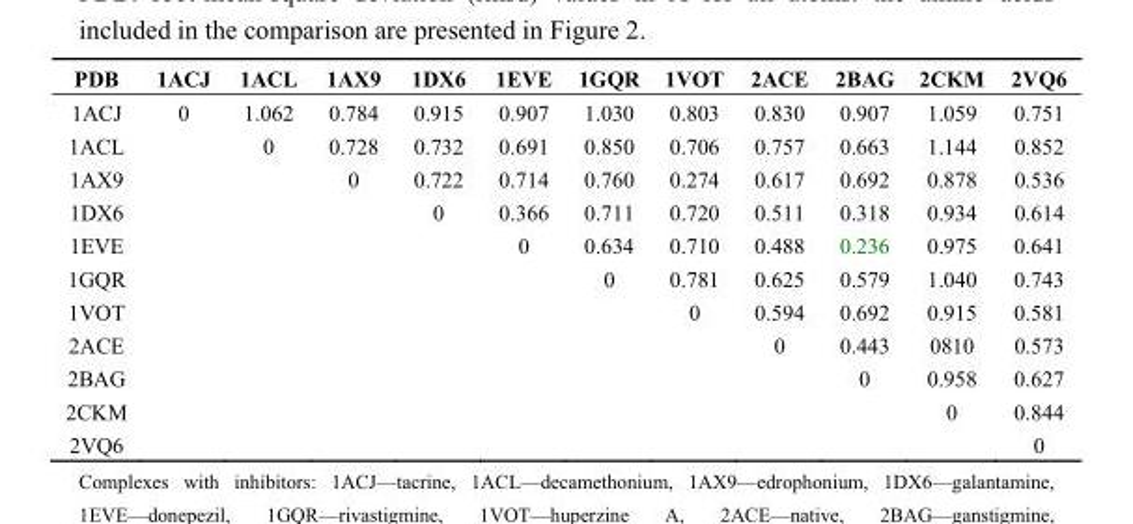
<table><thead><tr><td>PDB</td><td>1ACJ</td><td>1ACL</td><td>1AX9</td><td>1DX6</td><td>1EVE</td><td>1GQR</td><td>1VOT</td><td>2ACE</td><td>2BAG</td><td>2CKM</td><td>2VQ6</td></tr></thead><tbody><tr><td>1ACJ</td><td>0</td><td>1.062</td><td>0.784</td><td>0.915</td><td>0.907</td><td>1.030</td><td>0.803</td><td>0.830</td><td>0.907</td><td>1.059</td><td>0.751</td></tr><tr><td>1ACL</td><td></td><td>0</td><td>0.728</td><td>0.732</td><td>0.691</td><td>0.850</td><td>0.706</td><td>0.757</td><td>0.663</td><td>1.144</td><td>0.852</td></tr><tr><td>1AX9</td><td></td><td></td><td>0</td><td>0.722</td><td>0.714</td><td>0.760</td><td>0.274</td><td>0.617</td><td>0.692</td><td>0.878</td><td>0.536</td></tr><tr><td>1DX6</td><td></td><td></td><td></td><td>0</td><td>0.366</td><td>0.711</td><td>0.720</td><td>0.511</td><td>0.318</td><td>0.934</td><td>0.614</td></tr><tr><td>1EVE</td><td></td><td></td><td></td><td></td><td>0</td><td>0.634</td><td>0.710</td><td>0.488</td><td>0.236</td><td>0.975</td><td>0.641</td></tr><tr><td>1GQR</td><td></td><td></td><td></td><td></td><td></td><td>0</td><td>0.781</td><td>0.625</td><td>0.579</td><td>1.040</td><td>0.743</td></tr><tr><td>1VOT</td><td></td><td></td><td></td><td></td><td></td><td></td><td>0</td><td>0.594</td><td>0.692</td><td>0.915</td><td>0.581</td></tr><tr><td>2ACE</td><td></td><td></td><td></td><td></td><td></td><td></td><td></td><td>0</td><td>0.443</td><td>0810</td><td>0.573</td></tr><tr><td>2BAG</td><td></td><td></td><td></td><td></td><td></td><td></td><td></td><td></td><td>0</td><td>0.958</td><td>0.627</td></tr><tr><td>2CKM</td><td></td><td></td><td></td><td></td><td></td><td></td><td></td><td></td><td></td><td>0</td><td>0.844</td></tr><tr><td>2VQ6</td><td></td><td></td><td></td><td></td><td></td><td></td><td></td><td></td><td></td><td></td><td>0</td></tr></tbody></table>